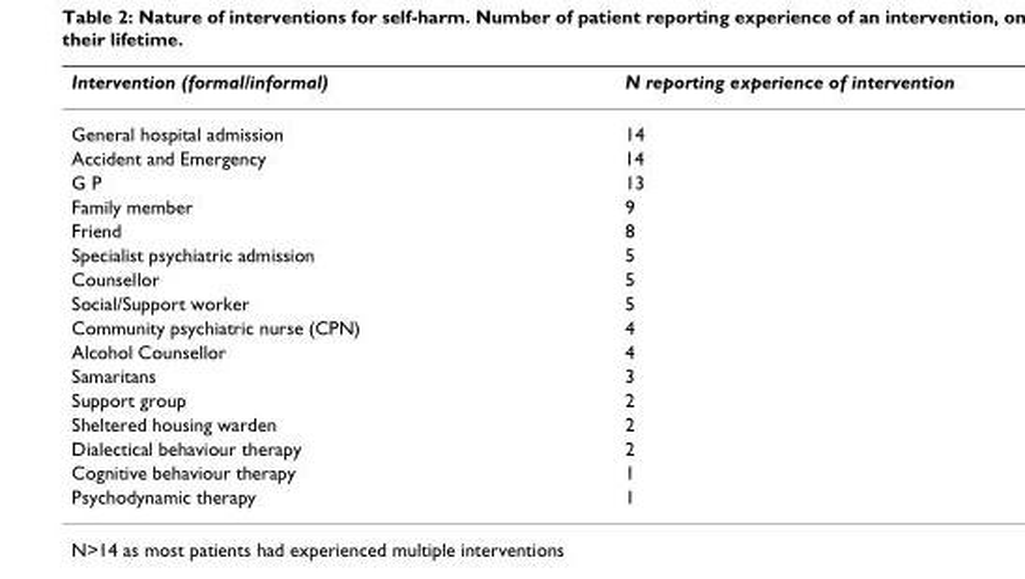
<table><thead><tr><td>Intervention (formal/informal)</td><td>N reporting experience of intervention</td></tr></thead><tbody><tr><td>General hospital admission</td><td>14</td></tr><tr><td>Accident and Emergency</td><td>14</td></tr><tr><td>G P</td><td>13</td></tr><tr><td>Family member</td><td>9</td></tr><tr><td>Friend</td><td>8</td></tr><tr><td>Specialist psychiatric admission</td><td>5</td></tr><tr><td>Counsellor</td><td>5</td></tr><tr><td>Social/Support worker</td><td>5</td></tr><tr><td>Community psychiatric nurse (CPN)</td><td>4</td></tr><tr><td>Alcohol Counsellor</td><td>4</td></tr><tr><td>Samaritans</td><td>3</td></tr><tr><td>Support group</td><td>2</td></tr><tr><td>Sheltered housing warden</td><td>2</td></tr><tr><td>Dialectical behaviour therapy</td><td>2</td></tr><tr><td>Cognitive behaviour therapy</td><td>1</td></tr><tr><td>Psychodynamic therapy</td><td>1</td></tr></tbody></table>